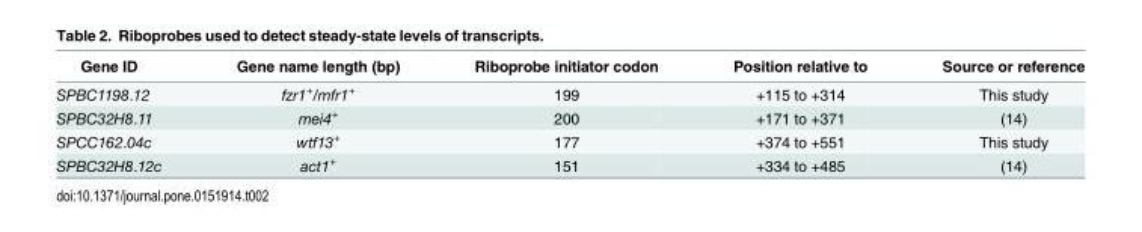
<table><thead><tr><td>Gene ID</td><td>Gene name length (bp)</td><td>Riboprobe initiator codon</td><td>Position relative to</td><td>Source or reference</td></tr></thead><tbody><tr><td>SPBC1198.12</td><td>fzr1<sup>+</sup>/mfr1<sup>+</sup></td><td>199</td><td>+115 to +314</td><td>This study</td></tr><tr><td>SPBC32H8.11</td><td>mei4<sup>+</sup></td><td>200</td><td>+171 to +371</td><td>(14)</td></tr><tr><td>SPCC162.04c</td><td>wtf13<sup>+</sup></td><td>177</td><td>+374 to +551</td><td>This study</td></tr><tr><td>SPBC32H8.12c</td><td>act1<sup>+</sup></td><td>151</td><td>+334 to +485</td><td>(14)</td></tr></tbody></table>